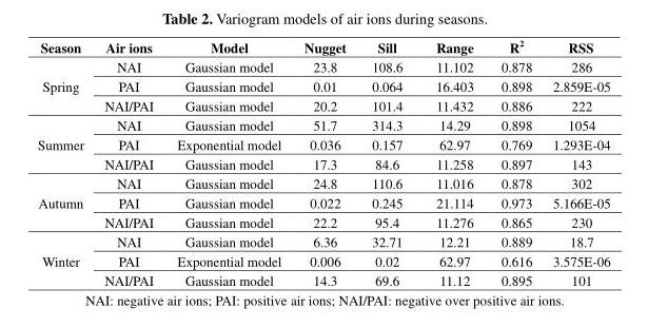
<table><thead><tr><td>Season</td><td>Air ions</td><td>Model</td><td>Nugget</td><td>Sill</td><td>Range</td><td>R<sup>2</sup></td><td>RSS</td></tr></thead><tbody><tr><td rowspan="3">Spring</td><td>NAI</td><td>Gaussian model</td><td>23.8</td><td>108.6</td><td>11.102</td><td>0.878</td><td>286</td></tr><tr><td>PAI</td><td>Gaussian model</td><td>0.01</td><td>0.064</td><td>16.403</td><td>0.898</td><td>2.859E-05</td></tr><tr><td>NAI/PAI</td><td>Gaussian model</td><td>20.2</td><td>101.4</td><td>11.432</td><td>0.886</td><td>222</td></tr><tr><td rowspan="3">Summer</td><td>NAI</td><td>Gaussian model</td><td>51.7</td><td>314.3</td><td>14.29</td><td>0.898</td><td>1054</td></tr><tr><td>PAI</td><td>Exponential model</td><td>0.036</td><td>0.157</td><td>62.97</td><td>0.769</td><td>1.293E-04</td></tr><tr><td>NAI/PAI</td><td>Gaussian model</td><td>17.3</td><td>84.6</td><td>11.258</td><td>0.897</td><td>143</td></tr><tr><td rowspan="3">Autumn</td><td>NAI</td><td>Gaussian model</td><td>24.8</td><td>110.6</td><td>11.016</td><td>0.878</td><td>302</td></tr><tr><td>PAI</td><td>Gaussian model</td><td>0.022</td><td>0.245</td><td>21.114</td><td>0.973</td><td>5.166E-05</td></tr><tr><td>NAI/PAI</td><td>Gaussian model</td><td>22.2</td><td>95.4</td><td>11.276</td><td>0.865</td><td>230</td></tr><tr><td rowspan="3">Winter</td><td>NAI</td><td>Gaussian model</td><td>6.36</td><td>32.71</td><td>12.21</td><td>0.889</td><td>18.7</td></tr><tr><td>PAI</td><td>Exponential model</td><td>0.006</td><td>0.02</td><td>62.97</td><td>0.616</td><td>3.575E-06</td></tr><tr><td>NAI/PAI</td><td>Gaussian model</td><td>14.3</td><td>69.6</td><td>11.12</td><td>0.895</td><td>101</td></tr></tbody></table>